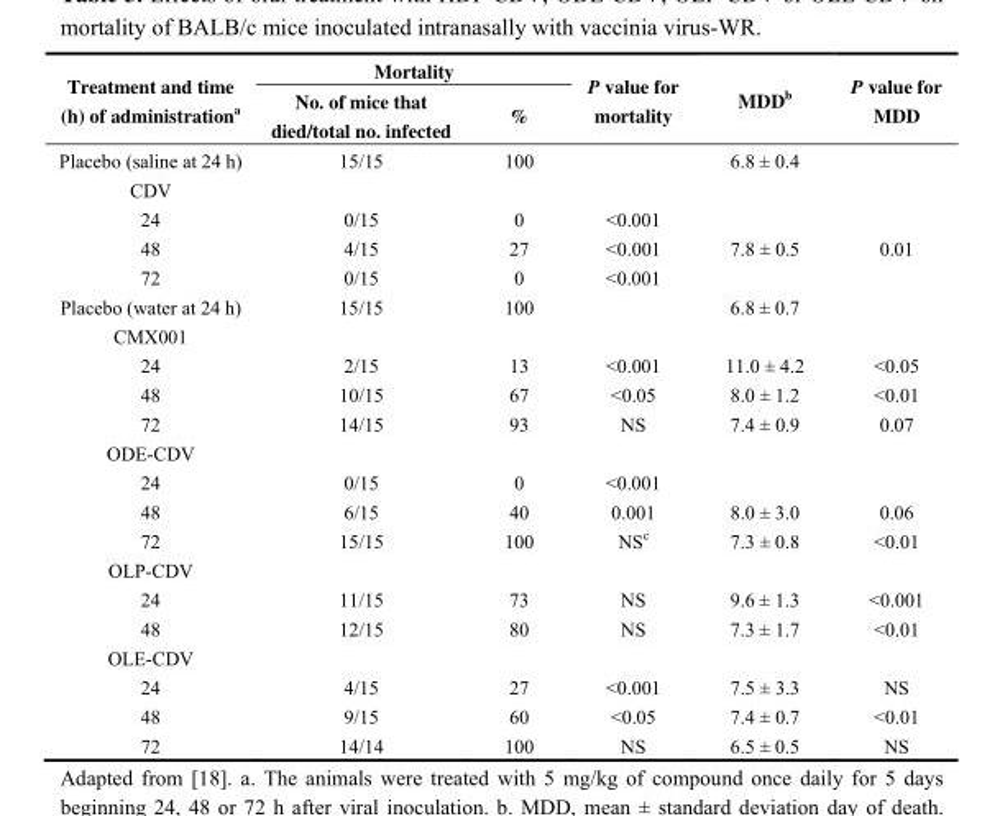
<table><thead><tr><td rowspan="2">Treatment and time (h) of administration<sup>a</sup></td><td colspan="2">Mortality</td><td rowspan="2">P value for mortality</td><td rowspan="2">MDD<sup>b</sup></td><td rowspan="2">P value for MDD</td></tr><tr><td>No. of mice that died/total no. infected</td><td>%</td></tr></thead><tbody><tr><td>Placebo (saline at 24 h)</td><td>15/15</td><td>100</td><td></td><td>6.8 ± 0.4</td><td></td></tr><tr><td colspan="6">CDV</td></tr><tr><td>24</td><td>0/15</td><td>0</td><td>&lt;0.001</td><td></td><td></td></tr><tr><td>48</td><td>4/15</td><td>27</td><td>&lt;0.001</td><td>7.8 ± 0.5</td><td>0.01</td></tr><tr><td>72</td><td>0/15</td><td>0</td><td>&lt;0.001</td><td></td><td></td></tr><tr><td>Placebo (water at 24 h)</td><td>15/15</td><td>100</td><td></td><td>6.8 ± 0.7</td><td></td></tr><tr><td colspan="6">CMX001</td></tr><tr><td>24</td><td>2/15</td><td>13</td><td>&lt;0.001</td><td>11.0 ± 4.2</td><td>&lt;0.05</td></tr><tr><td>48</td><td>10/15</td><td>67</td><td>&lt;0.05</td><td>8.0 ± 1.2</td><td>&lt;0.01</td></tr><tr><td>72</td><td>14/15</td><td>93</td><td>NS</td><td>7.4 ± 0.9</td><td>0.07</td></tr><tr><td colspan="6">ODE-CDV</td></tr><tr><td>24</td><td>0/15</td><td>0</td><td>&lt;0.001</td><td></td><td></td></tr><tr><td>48</td><td>6/15</td><td>40</td><td>0.001</td><td>8.0 ± 3.0</td><td>0.06</td></tr><tr><td>72</td><td>15/15</td><td>100</td><td>NS<sup>c</sup></td><td>7.3 ± 0.8</td><td>&lt;0.01</td></tr><tr><td colspan="6">OLP-CDV</td></tr><tr><td>24</td><td>11/15</td><td>73</td><td>NS</td><td>9.6 ± 1.3</td><td>&lt;0.001</td></tr><tr><td>48</td><td>12/15</td><td>80</td><td>NS</td><td>7.3 ± 1.7</td><td>&lt;0.01</td></tr><tr><td colspan="6">OLE-CDV</td></tr><tr><td>24</td><td>4/15</td><td>27</td><td>&lt;0.001</td><td>7.5 ± 3.3</td><td>NS</td></tr><tr><td>48</td><td>9/15</td><td>60</td><td>&lt;0.05</td><td>7.4 ± 0.7</td><td>&lt;0.01</td></tr><tr><td>72</td><td>14/14</td><td>100</td><td>NS</td><td>6.5 ± 0.5</td><td>NS</td></tr></tbody></table>